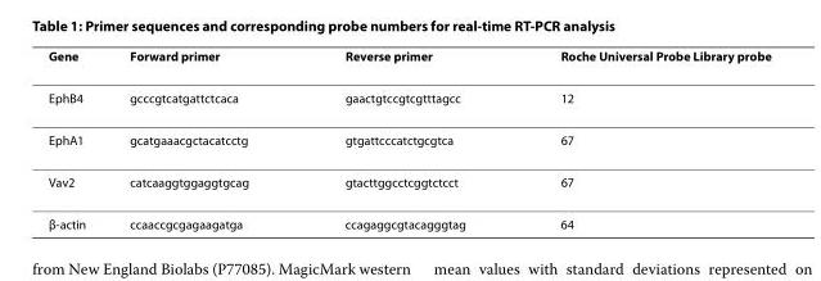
<table><thead><tr><td>Gene</td><td>Forward primer</td><td>Reverse primer</td><td>Roche Universal Probe Library probe</td></tr></thead><tbody><tr><td>EphB4</td><td>gcccgtcatgattctcaca</td><td>gaactgtccgtcgtttagcc</td><td>12</td></tr><tr><td>EphA1</td><td>gcatgaaacgctacatcctg</td><td>gtgattcccatctgcgtca</td><td>67</td></tr><tr><td>Vav2</td><td>catcaaggtggaggtgcag</td><td>gtacttggcctcggtctcct</td><td>67</td></tr><tr><td>β-actin</td><td>ccaaccgcgagaagatga</td><td>ccagaggcgtacagggtag</td><td>64</td></tr></tbody></table>